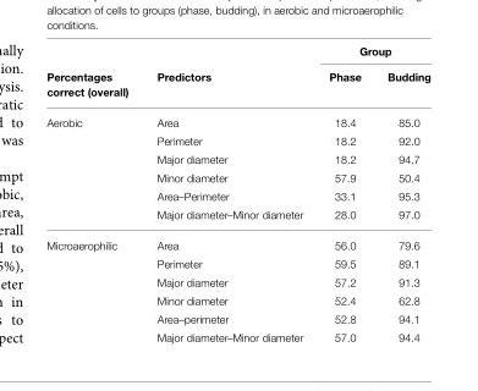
<table><thead><tr><td rowspan="2">Percentages correct (overall)</td><td rowspan="2">Predictors</td><td colspan="2">Group</td></tr><tr><td>Phase</td><td>Budding</td></tr></thead><tbody><tr><td rowspan="6">Aerobic</td><td>Area</td><td>18.4</td><td>85.0</td></tr><tr><td>Perimeter</td><td>18.2</td><td>92.0</td></tr><tr><td>Major diameter</td><td>18.2</td><td>94.7</td></tr><tr><td>Minor diameter</td><td>57.9</td><td>50.4</td></tr><tr><td>Area–Perimeter</td><td>33.1</td><td>95.3</td></tr><tr><td>Major diameter–Minor diameter</td><td>28.0</td><td>97.0</td></tr><tr><td rowspan="6">Microaerophilic</td><td>Area</td><td>56.0</td><td>79.6</td></tr><tr><td>Perimeter</td><td>59.5</td><td>89.1</td></tr><tr><td>Major diameter</td><td>57.2</td><td>91.3</td></tr><tr><td>Minor diameter</td><td>52.4</td><td>62.8</td></tr><tr><td>Area–perimeter</td><td>52.8</td><td>94.1</td></tr><tr><td>Major diameter–Minor diameter</td><td>57.0</td><td>94.4</td></tr></tbody></table>